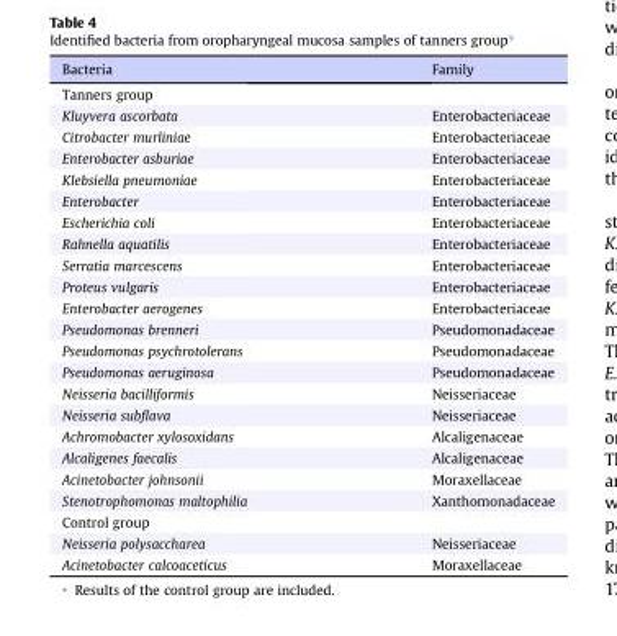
<table><thead><tr><td>Bacteria</td><td>Family</td></tr></thead><tbody><tr><td colspan="2">Tanners group</td></tr><tr><td>Kluyvera ascorbata</td><td>Enterobacteriaceae</td></tr><tr><td>Citrobacter murliniae</td><td>Enterobacteriaceae</td></tr><tr><td>Enterobacter asburiae</td><td>Enterobacteriaceae</td></tr><tr><td>Klebsiella pneumoniae</td><td>Enterobacteriaceae</td></tr><tr><td>Enterobacter</td><td>Enterobacteriaceae</td></tr><tr><td>Escherichia coli</td><td>Enterobacteriaceae</td></tr><tr><td>Rahnella aquatilis</td><td>Enterobacteriaceae</td></tr><tr><td>Serratia marcescens</td><td>Enterobacteriaceae</td></tr><tr><td>Proteus vulgaris</td><td>Enterobacteriaceae</td></tr><tr><td>Enterobacter aerogenes</td><td>Enterobacteriaceae</td></tr><tr><td>Pseudomonas brenneri</td><td>Pseudomonadaceae</td></tr><tr><td>Pseudomonas psychrotolerans</td><td>Pseudomonadaceae</td></tr><tr><td>Pseudomonas aeruginosa</td><td>Pseudomonadaceae</td></tr><tr><td>Neisseria bacilliformis</td><td>Neisseriaceae</td></tr><tr><td>Neisseria subflava</td><td>Neisseriaceae</td></tr><tr><td>Achromobacter xylosoxidans</td><td>Alcaligenaceae</td></tr><tr><td>Alcaligenes faecalis</td><td>Alcaligenaceae</td></tr><tr><td>Acinetobacter johnsonii</td><td>Moraxellaceae</td></tr><tr><td>Stenotrophomonas maltophilia</td><td>Xanthomonadaceae</td></tr><tr><td colspan="2">Control group</td></tr><tr><td>Neisseria polysaccharea</td><td>Neisseriaceae</td></tr><tr><td>Acinetobacter calcoaceticus</td><td>Moraxellaceae</td></tr></tbody></table>